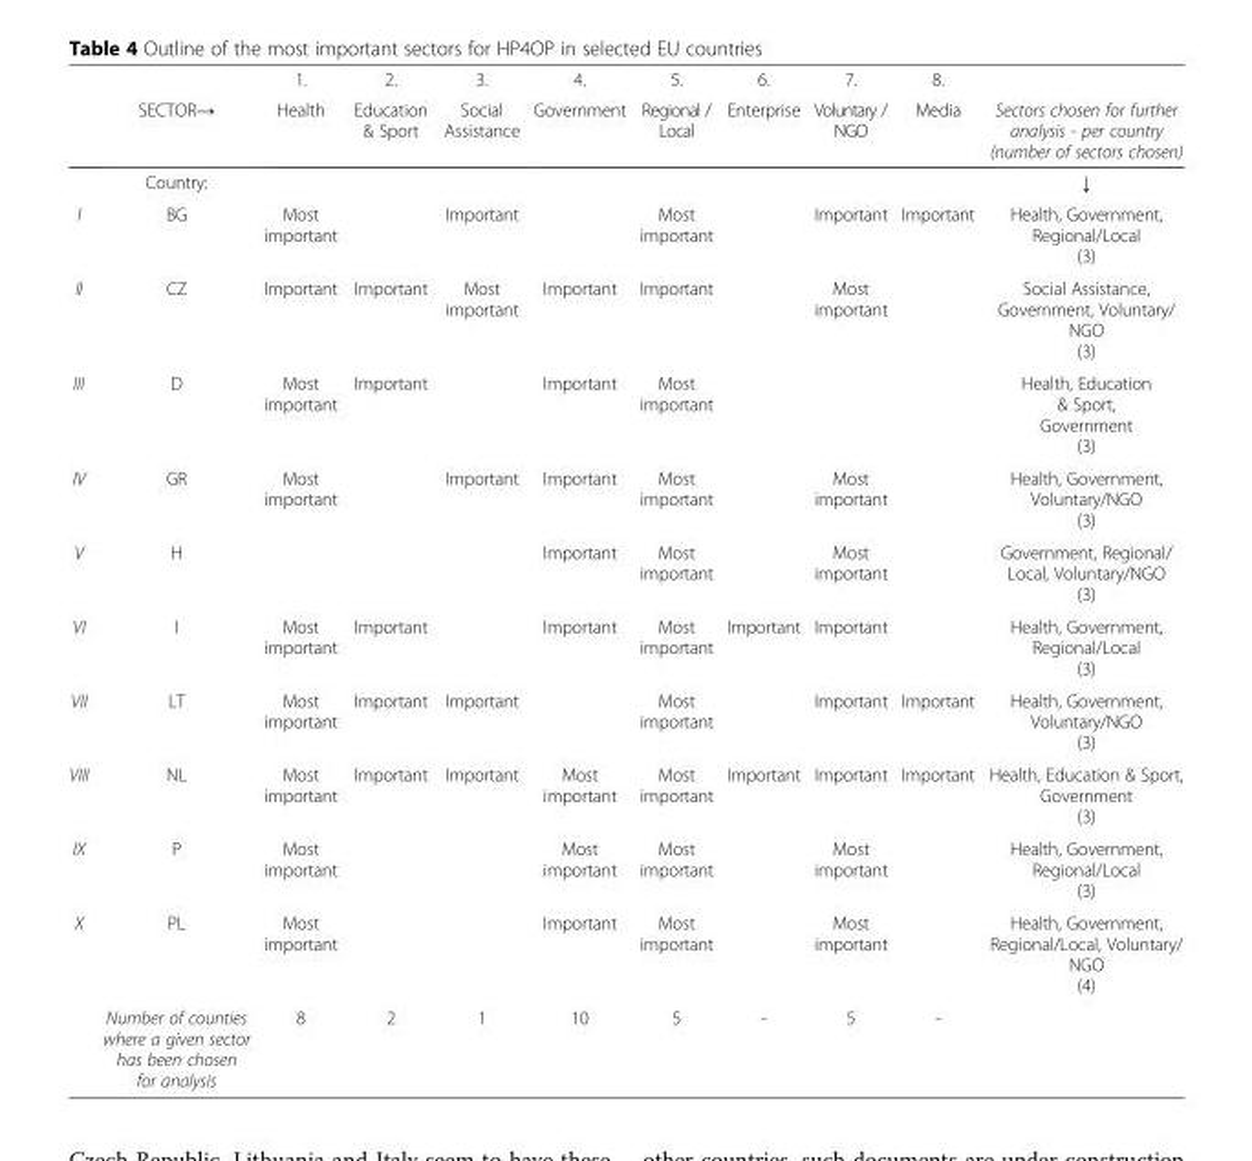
<table><thead><tr><td rowspan="2"></td><td rowspan="2">SECTOR→</td><td rowspan="2">1. Health</td><td rowspan="2">2. Education &amp; Sport</td><td rowspan="2">3. Social Assistance</td><td rowspan="2">4. Government</td><td rowspan="2">5. Regional / Local</td><td rowspan="2">6. Enterprise</td><td rowspan="2">7. Voluntary / NGO</td><td rowspan="2">8. Media</td><td rowspan="2">Sectors chosen for further analysis - per country (number of sectors chosen)</td></tr><tr></tr></thead><tbody><tr><td></td><td>Country:</td><td></td><td></td><td></td><td></td><td></td><td></td><td></td><td></td><td>↓</td></tr><tr><td>I</td><td>BG</td><td>Most important</td><td></td><td>Important</td><td></td><td>Most important</td><td></td><td>Important</td><td>Important</td><td>Health, Government, Regional/Local (3)</td></tr><tr><td>II</td><td>CZ</td><td>Important</td><td>Important</td><td>Most important</td><td>Important</td><td>Important</td><td></td><td>Most important</td><td></td><td>Social Assistance, Government, Voluntary/ NGO (3)</td></tr><tr><td>III</td><td>D</td><td>Most important</td><td>Important</td><td></td><td>Important</td><td>Most important</td><td></td><td></td><td></td><td>Health, Education &amp; Sport, Government (3)</td></tr><tr><td>IV</td><td>GR</td><td>Most important</td><td></td><td>Important</td><td>Important</td><td>Most important</td><td></td><td>Most important</td><td></td><td>Health, Government, Voluntary/NGO (3)</td></tr><tr><td>V</td><td>H</td><td></td><td></td><td></td><td>Important</td><td>Most important</td><td></td><td>Most important</td><td></td><td>Government, Regional/ Local, Voluntary/NGO (3)</td></tr><tr><td>VI</td><td>I</td><td>Most important</td><td>Important</td><td></td><td>Important</td><td>Most important</td><td>Important</td><td>Important</td><td></td><td>Health, Government, Regional/Local (3)</td></tr><tr><td>VII</td><td>LT</td><td>Most important</td><td>Important</td><td>Important</td><td></td><td>Most important</td><td></td><td>Important</td><td>Important</td><td>Health, Government, Voluntary/NGO (3)</td></tr><tr><td>VIII</td><td>NL</td><td>Most important</td><td>Important</td><td>Important</td><td>Most important</td><td>Most important</td><td>Important</td><td>Important</td><td>Important</td><td>Health, Education &amp; Sport, Government (3)</td></tr><tr><td>IX</td><td>P</td><td>Most important</td><td></td><td></td><td>Most important</td><td>Most important</td><td></td><td>Most important</td><td></td><td>Health, Government, Regional/Local (3)</td></tr><tr><td rowspan="2">X</td><td>PL</td><td>Most important</td><td></td><td></td><td>Important</td><td>Most important</td><td></td><td>Most important</td><td></td><td>Health, Government, Regional/Local, Voluntary/ NGO (4)</td></tr><tr><td>Number of counties where a given sector has been chosen for analysis</td><td>8</td><td>2</td><td>1</td><td>10</td><td>5</td><td>-</td><td>5</td><td>-</td><td></td></tr></tbody></table>